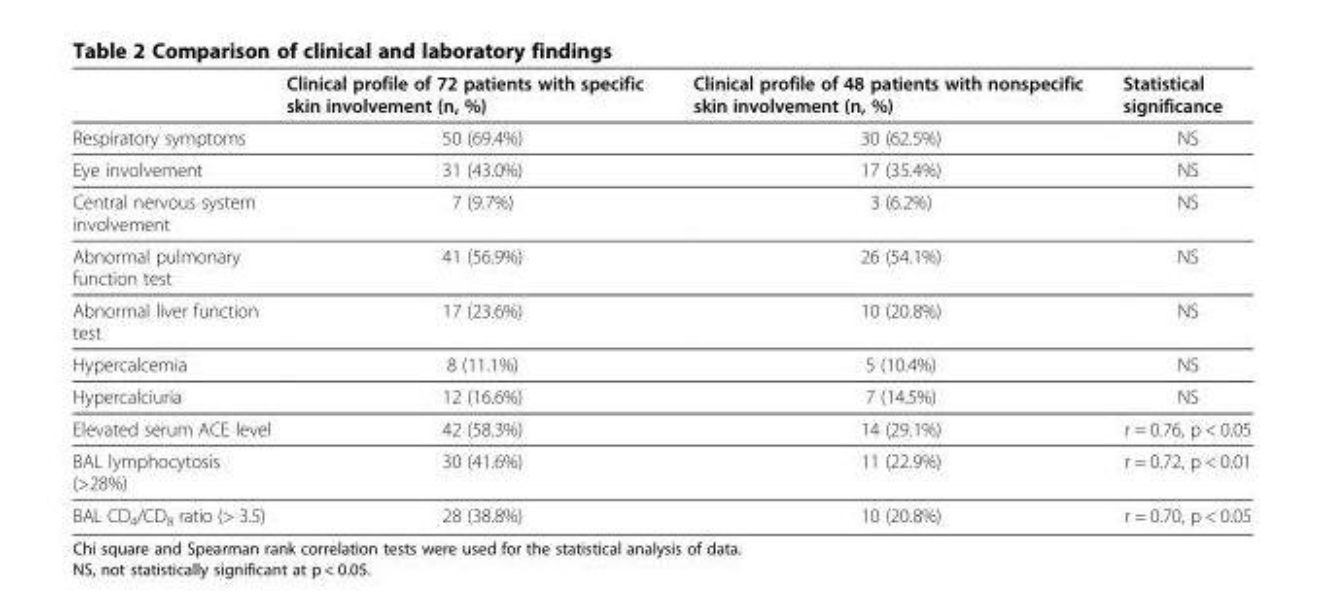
<table><thead><tr><td></td><td>Clinical profile of 72 patients with specific skin involvement (n, %)</td><td>Clinical profile of 48 patients with nonspecific skin involvement (n, %)</td><td>Statistical significance</td></tr></thead><tbody><tr><td>Respiratory symptoms</td><td>50 (69.4%)</td><td>30 (62.5%)</td><td>NS</td></tr><tr><td>Eye involvement</td><td>31 (43.0%)</td><td>17 (35.4%)</td><td>NS</td></tr><tr><td>Central nervous system involvement</td><td>7 (9.7%)</td><td>3 (6.2%)</td><td>NS</td></tr><tr><td>Abnormal pulmonary function test</td><td>41 (56.9%)</td><td>26 (54.1%)</td><td>NS</td></tr><tr><td>Abnormal liver function test</td><td>17 (23.6%)</td><td>10 (20.8%)</td><td>NS</td></tr><tr><td>Hypercalcemia</td><td>8 (11.1%)</td><td>5 (10.4%)</td><td>NS</td></tr><tr><td>Hypercalciuria</td><td>12 (16.6%)</td><td>7 (14.5%)</td><td>NS</td></tr><tr><td>Elevated serum ACE level</td><td>42 (58.3%)</td><td>14 (29.1%)</td><td>r = 0.76, p &lt; 0.05</td></tr><tr><td>BAL lymphocytosis (&gt;28%)</td><td>30 (41.6%)</td><td>11 (22.9%)</td><td>r = 0.72, p &lt; 0.01</td></tr><tr><td>BAL CD<sub>4</sub>/CD<sub>8</sub> ratio (&gt; 3.5)</td><td>28 (38.8%)</td><td>10 (20.8%)</td><td>r = 0.70, p &lt; 0.05</td></tr></tbody></table>